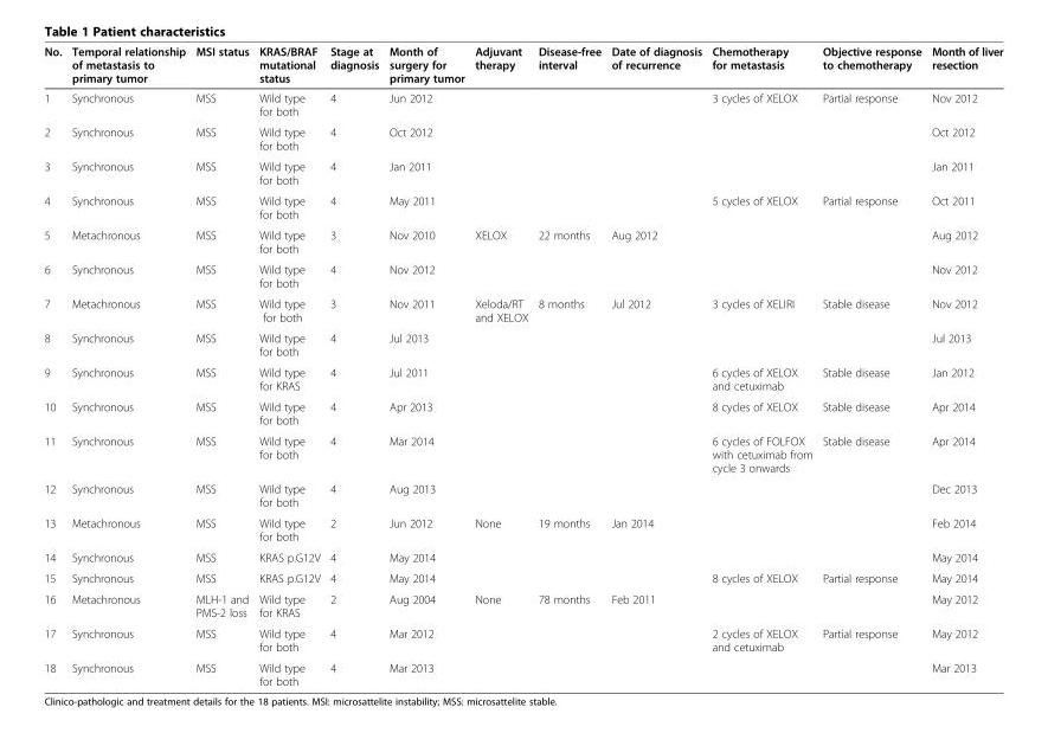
<table><thead><tr><td>No.</td><td>Temporal relationship of metastasis to primary tumor</td><td>MSI status</td><td>KRAS/BRAF mutational status</td><td>Stage at diagnosis</td><td>Month of surgery for primary tumor</td><td>Adjuvant therapy</td><td>Disease-free interval</td><td>Date of diagnosis of recurrence</td><td>Chemotherapy for metastasis</td><td>Objective response to chemotherapy</td><td>Month of liver resection</td></tr></thead><tbody><tr><td>1</td><td>Synchronous</td><td>MSS</td><td>Wild type for both</td><td>4</td><td>Jun 2012</td><td></td><td></td><td></td><td>3 cycles of XELOX</td><td>Partial response</td><td>Nov 2012</td></tr><tr><td>2</td><td>Synchronous</td><td>MSS</td><td>Wild type for both</td><td>4</td><td>Oct 2012</td><td></td><td></td><td></td><td></td><td></td><td>Oct 2012</td></tr><tr><td>3</td><td>Synchronous</td><td>MSS</td><td>Wild type for both</td><td>4</td><td>Jan 2011</td><td></td><td></td><td></td><td></td><td></td><td>Jan 2011</td></tr><tr><td>4</td><td>Synchronous</td><td>MSS</td><td>Wild type for both</td><td>4</td><td>May 2011</td><td></td><td></td><td></td><td>5 cycles of XELOX</td><td>Partial response</td><td>Oct 2011</td></tr><tr><td>5</td><td>Metachronous</td><td>MSS</td><td>Wild type for both</td><td>3</td><td>Nov 2010</td><td>XELOX</td><td>22 months</td><td>Aug 2012</td><td></td><td></td><td>Aug 2012</td></tr><tr><td>6</td><td>Synchronous</td><td>MSS</td><td>Wild type for both</td><td>4</td><td>Nov 2012</td><td></td><td></td><td></td><td></td><td></td><td>Nov 2012</td></tr><tr><td>7</td><td>Metachronous</td><td>MSS</td><td>Wild type for both</td><td>3</td><td>Nov 2011</td><td>Xeloda/RT and XELOX</td><td>8 months</td><td>Jul 2012</td><td>3 cycles of XELIRI</td><td>Stable disease</td><td>Nov 2012</td></tr><tr><td>8</td><td>Synchronous</td><td>MSS</td><td>Wild type for both</td><td>4</td><td>Jul 2013</td><td></td><td></td><td></td><td></td><td></td><td>Jul 2013</td></tr><tr><td>9</td><td>Synchronous</td><td>MSS</td><td>Wild type for KRAS</td><td>4</td><td>Jul 2011</td><td></td><td></td><td></td><td>6 cycles of XELOX and cetuximab</td><td>Stable disease</td><td>Jan 2012</td></tr><tr><td>10</td><td>Synchronous</td><td>MSS</td><td>Wild type for both</td><td>4</td><td>Apr 2013</td><td></td><td></td><td></td><td>8 cycles of XELOX</td><td>Stable disease</td><td>Apr 2014</td></tr><tr><td>11</td><td>Synchronous</td><td>MSS</td><td>Wild type for both</td><td>4</td><td>Mar 2014</td><td></td><td></td><td></td><td>6 cycles of FOLFOX with cetuximab from cycle 3 onwards</td><td>Stable disease</td><td>Apr 2014</td></tr><tr><td>12</td><td>Synchronous</td><td>MSS</td><td>Wild type for both</td><td>4</td><td>Aug 2013</td><td></td><td></td><td></td><td></td><td></td><td>Dec 2013</td></tr><tr><td>13</td><td>Metachronous</td><td>MSS</td><td>Wild type for both</td><td>2</td><td>Jun 2012</td><td>None</td><td>19 months</td><td>Jan 2014</td><td></td><td></td><td>Feb 2014</td></tr><tr><td>14</td><td>Synchronous</td><td>MSS</td><td>KRAS p.G12V</td><td>4</td><td>May 2014</td><td></td><td></td><td></td><td></td><td></td><td>May 2014</td></tr><tr><td>15</td><td>Synchronous</td><td>MSS</td><td>KRAS p.G12V</td><td>4</td><td>May 2014</td><td></td><td></td><td></td><td>8 cycles of XELOX</td><td>Partial response</td><td>May 2014</td></tr><tr><td>16</td><td>Metachronous</td><td>MLH-1 and PMS-2 loss</td><td>Wild type for KRAS</td><td>2</td><td>Aug 2004</td><td>None</td><td>78 months</td><td>Feb 2011</td><td></td><td></td><td>May 2012</td></tr><tr><td>17</td><td>Synchronous</td><td>MSS</td><td>Wild type for both</td><td>4</td><td>Mar 2012</td><td></td><td></td><td></td><td>2 cycles of XELOX and cetuximab</td><td>Partial response</td><td>May 2012</td></tr><tr><td>18</td><td>Synchronous</td><td>MSS</td><td>Wild type for both</td><td>4</td><td>Mar 2013</td><td></td><td></td><td></td><td></td><td></td><td>Mar 2013</td></tr></tbody></table>